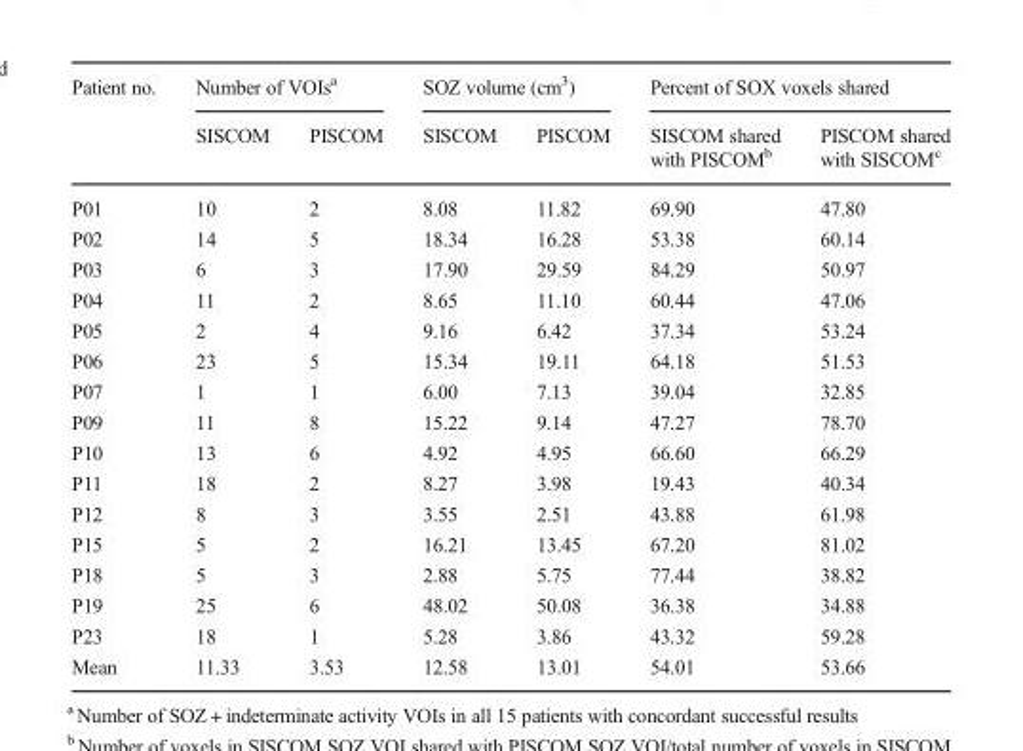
<table><thead><tr><td rowspan="2">Patient no.</td><td colspan="2">Number of VOIs<sup>a</sup></td><td colspan="2">SOZ volume (cm<sup>3</sup>)</td><td colspan="2">Percent of SOX voxels shared</td></tr><tr><td>SISCOM</td><td>PISCOM</td><td>SISCOM</td><td>PISCOM</td><td>SISCOM shared with PISCOM<sup>b</sup></td><td>PISCOM shared with SISCOM<sup>c</sup></td></tr></thead><tbody><tr><td>P01</td><td>10</td><td>2</td><td>8.08</td><td>11.82</td><td>69.90</td><td>47.80</td></tr><tr><td>P02</td><td>14</td><td>5</td><td>18.34</td><td>16.28</td><td>53.38</td><td>60.14</td></tr><tr><td>P03</td><td>6</td><td>3</td><td>17.90</td><td>29.59</td><td>84.29</td><td>50.97</td></tr><tr><td>P04</td><td>11</td><td>2</td><td>8.65</td><td>11.10</td><td>60.44</td><td>47.06</td></tr><tr><td>P05</td><td>2</td><td>4</td><td>9.16</td><td>6.42</td><td>37.34</td><td>53.24</td></tr><tr><td>P06</td><td>23</td><td>5</td><td>15.34</td><td>19.11</td><td>64.18</td><td>51.53</td></tr><tr><td>P07</td><td>1</td><td>1</td><td>6.00</td><td>7.13</td><td>39.04</td><td>32.85</td></tr><tr><td>P09</td><td>11</td><td>8</td><td>15.22</td><td>9.14</td><td>47.27</td><td>78.70</td></tr><tr><td>P10</td><td>13</td><td>6</td><td>4.92</td><td>4.95</td><td>66.60</td><td>66.29</td></tr><tr><td>P11</td><td>18</td><td>2</td><td>8.27</td><td>3.98</td><td>19.43</td><td>40.34</td></tr><tr><td>P12</td><td>8</td><td>3</td><td>3.55</td><td>2.51</td><td>43.88</td><td>61.98</td></tr><tr><td>P15</td><td>5</td><td>2</td><td>16.21</td><td>13.45</td><td>67.20</td><td>81.02</td></tr><tr><td>P18</td><td>5</td><td>3</td><td>2.88</td><td>5.75</td><td>77.44</td><td>38.82</td></tr><tr><td>P19</td><td>25</td><td>6</td><td>48.02</td><td>50.08</td><td>36.38</td><td>34.88</td></tr><tr><td>P23</td><td>18</td><td>1</td><td>5.28</td><td>3.86</td><td>43.32</td><td>59.28</td></tr><tr><td>Mean</td><td>11.33</td><td>3.53</td><td>12.58</td><td>13.01</td><td>54.01</td><td>53.66</td></tr></tbody></table>